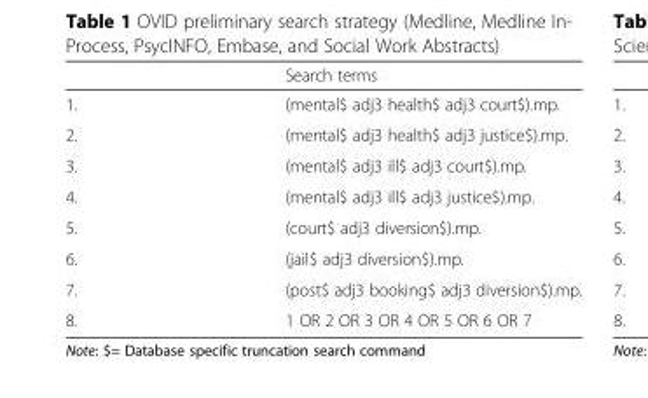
<table><thead><tr><td></td><td>Search terms</td></tr></thead><tbody><tr><td>1.</td><td>(mental$ adj3 health$ adj3 court$).mp.</td></tr><tr><td>2.</td><td>(mental$ adj3 health$ adj3 justice$).mp.</td></tr><tr><td>3.</td><td>(mental$ adj3 ill$ adj3 court$).mp.</td></tr><tr><td>4.</td><td>(mental$ adj3 ill$ adj3 justice$).mp.</td></tr><tr><td>5.</td><td>(court$ adj3 diversion$).mp.</td></tr><tr><td>6.</td><td>(jail$ adj3 diversion$).mp.</td></tr><tr><td>7.</td><td>(post$ adj3 booking$ adj3 diversion$).mp.</td></tr><tr><td>8.</td><td>1 OR 2 OR 3 OR 4 OR 5 OR 6 OR 7</td></tr></tbody></table>